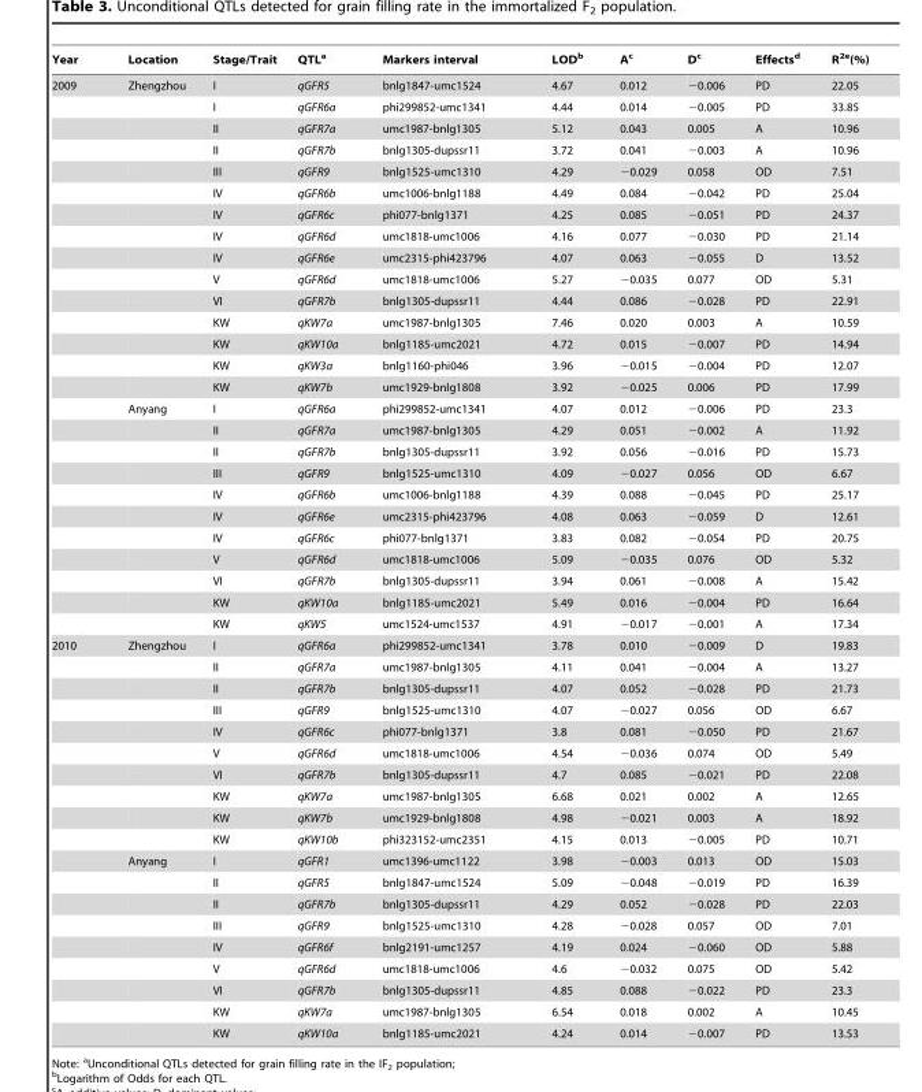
<table><thead><tr><td>Year</td><td>Location</td><td>Stage/Trait</td><td>QTL<sup>a</sup></td><td>Markers interval</td><td>LOD<sup>b</sup></td><td>A<sup>c</sup></td><td>D<sup>c</sup></td><td>Effects<sup>d</sup></td><td>R<sup>2e</sup>(%)</td></tr></thead><tbody><tr><td rowspan="26">2009</td><td>Zhengzhou</td><td>I</td><td>qGFR5</td><td>bnlg1847-umc1524</td><td>4.67</td><td>0.012</td><td>−0.006</td><td>PD</td><td>22.05</td></tr><tr><td></td><td>I</td><td>qGFR6a</td><td>phi299852-umc1341</td><td>4.44</td><td>0.014</td><td>−0.005</td><td>PD</td><td>33.85</td></tr><tr><td></td><td>II</td><td>qGFR7a</td><td>umc1987-bnlg1305</td><td>5.12</td><td>0.043</td><td>0.005</td><td>A</td><td>10.96</td></tr><tr><td></td><td>II</td><td>qGFR7b</td><td>bnlg1305-dupssr11</td><td>3.72</td><td>0.041</td><td>−0.003</td><td>A</td><td>10.96</td></tr><tr><td></td><td>III</td><td>qGFR9</td><td>bnlg1525-umc1310</td><td>4.29</td><td>−0.029</td><td>0.058</td><td>OD</td><td>7.51</td></tr><tr><td></td><td>IV</td><td>qGFR6b</td><td>umc1006-bnlg1188</td><td>4.49</td><td>0.084</td><td>−0.042</td><td>PD</td><td>25.04</td></tr><tr><td></td><td>IV</td><td>qGFR6c</td><td>phi077-bnlg1371</td><td>4.25</td><td>0.085</td><td>−0.051</td><td>PD</td><td>24.37</td></tr><tr><td></td><td>IV</td><td>qGFR6d</td><td>umc1818-umc1006</td><td>4.16</td><td>0.077</td><td>−0.030</td><td>PD</td><td>21.14</td></tr><tr><td></td><td>IV</td><td>qGFR6e</td><td>umc2315-phi423796</td><td>4.07</td><td>0.063</td><td>−0.055</td><td>D</td><td>13.52</td></tr><tr><td></td><td>V</td><td>qGFR6d</td><td>umc1818-umc1006</td><td>5.27</td><td>−0.035</td><td>0.077</td><td>OD</td><td>5.31</td></tr><tr><td></td><td>VI</td><td>qGFR7b</td><td>bnlg1305-dupssr11</td><td>4.44</td><td>0.086</td><td>−0.028</td><td>PD</td><td>22.91</td></tr><tr><td></td><td>KW</td><td>qKW7a</td><td>umc1987-bnlg1305</td><td>7.46</td><td>0.020</td><td>0.003</td><td>A</td><td>10.59</td></tr><tr><td></td><td>KW</td><td>qKW10a</td><td>bnlg1185-umc2021</td><td>4.72</td><td>0.015</td><td>−0.007</td><td>PD</td><td>14.94</td></tr><tr><td></td><td>KW</td><td>qKW3a</td><td>bnlg1160-phi046</td><td>3.96</td><td>−0.015</td><td>−0.004</td><td>PD</td><td>12.07</td></tr><tr><td></td><td>KW</td><td>qKW7b</td><td>umc1929-bnlg1808</td><td>3.92</td><td>−0.025</td><td>0.006</td><td>PD</td><td>17.99</td></tr><tr><td>Anyang</td><td>I</td><td>qGFR6a</td><td>phi299852-umc1341</td><td>4.07</td><td>0.012</td><td>−0.006</td><td>PD</td><td>23.3</td></tr><tr><td></td><td>II</td><td>qGFR7a</td><td>umc1987-bnlg1305</td><td>4.29</td><td>0.051</td><td>−0.002</td><td>A</td><td>11.92</td></tr><tr><td></td><td>II</td><td>qGFR7b</td><td>bnlg1305-dupssr11</td><td>3.92</td><td>0.056</td><td>−0.016</td><td>PD</td><td>15.73</td></tr><tr><td></td><td>III</td><td>qGFR9</td><td>bnlg1525-umc1310</td><td>4.09</td><td>−0.027</td><td>0.056</td><td>OD</td><td>6.67</td></tr><tr><td></td><td>IV</td><td>qGFR6b</td><td>umc1006-bnlg1188</td><td>4.39</td><td>0.088</td><td>−0.045</td><td>PD</td><td>25.17</td></tr><tr><td></td><td>IV</td><td>qGFR6e</td><td>umc2315-phi423796</td><td>4.08</td><td>0.063</td><td>−0.059</td><td>D</td><td>12.61</td></tr><tr><td></td><td>IV</td><td>qGFR6c</td><td>phi077-bnlg1371</td><td>3.83</td><td>0.082</td><td>−0.054</td><td>PD</td><td>20.75</td></tr><tr><td></td><td>V</td><td>qGFR6d</td><td>umc1818-umc1006</td><td>5.09</td><td>−0.035</td><td>0.076</td><td>OD</td><td>5.32</td></tr><tr><td></td><td>VI</td><td>qGFR7b</td><td>bnlg1305-dupssr11</td><td>3.94</td><td>0.061</td><td>−0.008</td><td>A</td><td>15.42</td></tr><tr><td></td><td>KW</td><td>qKW10a</td><td>bnlg1185-umc2021</td><td>5.49</td><td>0.016</td><td>−0.004</td><td>PD</td><td>16.64</td></tr><tr><td></td><td>KW</td><td>qKW5</td><td>umc1524-umc1537</td><td>4.91</td><td>−0.017</td><td>−0.001</td><td>A</td><td>17.34</td></tr><tr><td rowspan="19">2010</td><td>Zhengzhou</td><td>I</td><td>qGFR6a</td><td>phi299852-umc1341</td><td>3.78</td><td>0.010</td><td>−0.009</td><td>D</td><td>19.83</td></tr><tr><td></td><td>II</td><td>qGFR7a</td><td>umc1987-bnlg1305</td><td>4.11</td><td>0.041</td><td>−0.004</td><td>A</td><td>13.27</td></tr><tr><td></td><td>II</td><td>qGFR7b</td><td>bnlg1305-dupssr11</td><td>4.07</td><td>0.052</td><td>−0.028</td><td>PD</td><td>21.73</td></tr><tr><td></td><td>III</td><td>qGFR9</td><td>bnlg1525-umc1310</td><td>4.07</td><td>−0.027</td><td>0.056</td><td>OD</td><td>6.67</td></tr><tr><td></td><td>IV</td><td>qGFR6c</td><td>phi077-bnlg1371</td><td>3.8</td><td>0.081</td><td>−0.050</td><td>PD</td><td>21.67</td></tr><tr><td></td><td>V</td><td>qGFR6d</td><td>umc1818-umc1006</td><td>4.54</td><td>−0.036</td><td>0.074</td><td>OD</td><td>5.49</td></tr><tr><td></td><td>VI</td><td>qGFR7b</td><td>bnlg1305-dupssr11</td><td>4.7</td><td>0.085</td><td>−0.021</td><td>PD</td><td>22.08</td></tr><tr><td></td><td>KW</td><td>qKW7a</td><td>umc1987-bnlg1305</td><td>6.68</td><td>0.021</td><td>0.002</td><td>A</td><td>12.65</td></tr><tr><td></td><td>KW</td><td>qKW7b</td><td>umc1929-bnlg1808</td><td>4.98</td><td>−0.021</td><td>0.003</td><td>A</td><td>18.92</td></tr><tr><td></td><td>KW</td><td>qKW10b</td><td>phi323152-umc2351</td><td>4.15</td><td>0.013</td><td>−0.005</td><td>PD</td><td>10.71</td></tr><tr><td>Anyang</td><td>I</td><td>qGFR1</td><td>umc1396-umc1122</td><td>3.98</td><td>−0.003</td><td>0.013</td><td>OD</td><td>15.03</td></tr><tr><td></td><td>II</td><td>qGFR5</td><td>bnlg1847-umc1524</td><td>5.09</td><td>−0.048</td><td>−0.019</td><td>PD</td><td>16.39</td></tr><tr><td></td><td>II</td><td>qGFR7b</td><td>bnlg1305-dupssr11</td><td>4.29</td><td>0.052</td><td>−0.028</td><td>PD</td><td>22.03</td></tr><tr><td></td><td>III</td><td>qGFR9</td><td>bnlg1525-umc1310</td><td>4.28</td><td>−0.028</td><td>0.057</td><td>OD</td><td>7.01</td></tr><tr><td></td><td>IV</td><td>qGFR6f</td><td>bnlg2191-umc1257</td><td>4.19</td><td>0.024</td><td>−0.060</td><td>OD</td><td>5.88</td></tr><tr><td></td><td>V</td><td>qGFR6d</td><td>umc1818-umc1006</td><td>4.6</td><td>−0.032</td><td>0.075</td><td>OD</td><td>5.42</td></tr><tr><td></td><td>VI</td><td>qGFR7b</td><td>bnlg1305-dupssr11</td><td>4.85</td><td>0.088</td><td>−0.022</td><td>PD</td><td>23.3</td></tr><tr><td></td><td>KW</td><td>qKW7a</td><td>umc1987-bnlg1305</td><td>6.54</td><td>0.018</td><td>0.002</td><td>A</td><td>10.45</td></tr><tr><td></td><td>KW</td><td>qKW10a</td><td>bnlg1185-umc2021</td><td>4.24</td><td>0.014</td><td>−0.007</td><td>PD</td><td>13.53</td></tr></tbody></table>